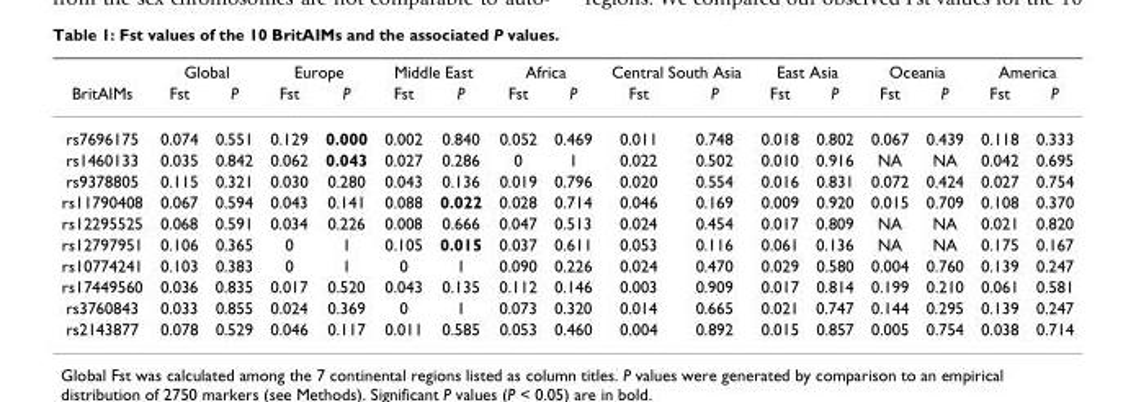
<table><thead><tr><td rowspan="2">BritAIMs</td><td colspan="2">Global</td><td colspan="2">Europe</td><td colspan="2">Middle East</td><td colspan="2">Africa</td><td colspan="2">Central South Asia</td><td colspan="2">East Asia</td><td colspan="2">Oceania</td><td colspan="2">America</td></tr><tr><td>Fst</td><td>P</td><td>Fst</td><td>P</td><td>Fst</td><td>P</td><td>Fst</td><td>P</td><td>Fst</td><td>P</td><td>Fst</td><td>P</td><td>Fst</td><td>P</td><td>Fst</td><td>P</td></tr></thead><tbody><tr><td>rs7696175</td><td>0.074</td><td>0.551</td><td>0.129</td><td>0.000</td><td>0.002</td><td>0.840</td><td>0.052</td><td>0.469</td><td>0.011</td><td>0.748</td><td>0.018</td><td>0.802</td><td>0.067</td><td>0.439</td><td>0.118</td><td>0.333</td></tr><tr><td>rs1460133</td><td>0.035</td><td>0.842</td><td>0.062</td><td>0.043</td><td>0.027</td><td>0.286</td><td>0</td><td>1</td><td>0.022</td><td>0.502</td><td>0.010</td><td>0.916</td><td>NA</td><td>NA</td><td>0.042</td><td>0.695</td></tr><tr><td>rs9378805</td><td>0.115</td><td>0.321</td><td>0.030</td><td>0.280</td><td>0.043</td><td>0.136</td><td>0.019</td><td>0.796</td><td>0.020</td><td>0.554</td><td>0.016</td><td>0.831</td><td>0.072</td><td>0.424</td><td>0.027</td><td>0.754</td></tr><tr><td>rs11790408</td><td>0.067</td><td>0.594</td><td>0.043</td><td>0.141</td><td>0.088</td><td>0.022</td><td>0.028</td><td>0.714</td><td>0.046</td><td>0.169</td><td>0.009</td><td>0.920</td><td>0.015</td><td>0.709</td><td>0.108</td><td>0.370</td></tr><tr><td>rs12295525</td><td>0.068</td><td>0.591</td><td>0.034</td><td>0.226</td><td>0.008</td><td>0.666</td><td>0.047</td><td>0.513</td><td>0.024</td><td>0.454</td><td>0.017</td><td>0.809</td><td>NA</td><td>NA</td><td>0.021</td><td>0.820</td></tr><tr><td>rs12797951</td><td>0.106</td><td>0.365</td><td>0</td><td>1</td><td>0.105</td><td>0.015</td><td>0.037</td><td>0.611</td><td>0.053</td><td>0.116</td><td>0.061</td><td>0.136</td><td>NA</td><td>NA</td><td>0.175</td><td>0.167</td></tr><tr><td>rs10774241</td><td>0.103</td><td>0.383</td><td>0</td><td>1</td><td>0</td><td>1</td><td>0.090</td><td>0.226</td><td>0.024</td><td>0.470</td><td>0.029</td><td>0.580</td><td>0.004</td><td>0.760</td><td>0.139</td><td>0.247</td></tr><tr><td>rs17449560</td><td>0.036</td><td>0.835</td><td>0.017</td><td>0.520</td><td>0.043</td><td>0.135</td><td>0.112</td><td>0.146</td><td>0.003</td><td>0.909</td><td>0.017</td><td>0.814</td><td>0.199</td><td>0.210</td><td>0.061</td><td>0.581</td></tr><tr><td>rs3760843</td><td>0.033</td><td>0.855</td><td>0.024</td><td>0.369</td><td>0</td><td>1</td><td>0.073</td><td>0.320</td><td>0.014</td><td>0.665</td><td>0.021</td><td>0.747</td><td>0.144</td><td>0.295</td><td>0.139</td><td>0.247</td></tr><tr><td>rs2143877</td><td>0.078</td><td>0.529</td><td>0.046</td><td>0.117</td><td>0.011</td><td>0.585</td><td>0.053</td><td>0.460</td><td>0.004</td><td>0.892</td><td>0.015</td><td>0.857</td><td>0.005</td><td>0.754</td><td>0.038</td><td>0.714</td></tr></tbody></table>